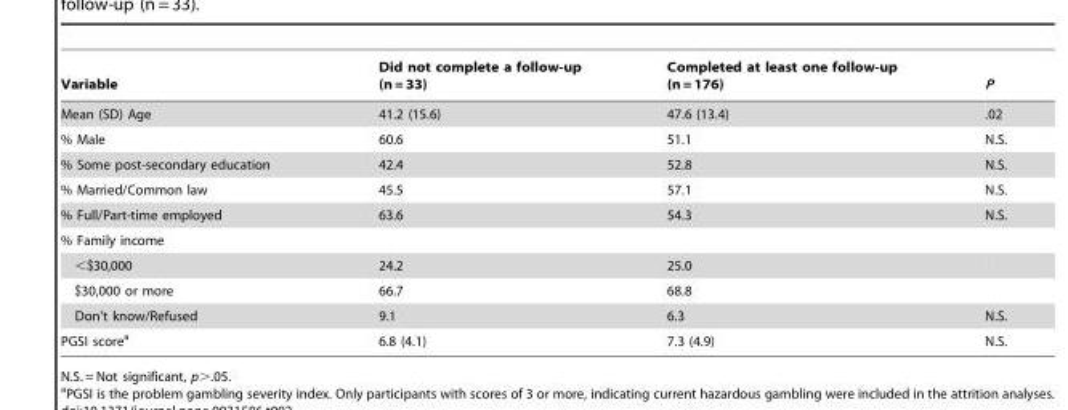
<table><thead><tr><td>Variable</td><td>Did not complete a follow-up (n = 33)</td><td>Completed at least one follow-up (n = 176)</td><td>P</td></tr></thead><tbody><tr><td>Mean (SD) Age</td><td>41.2 (15.6)</td><td>47.6 (13.4)</td><td>.02</td></tr><tr><td>% Male</td><td>60.6</td><td>51.1</td><td>N.S.</td></tr><tr><td>% Some post-secondary education</td><td>42.4</td><td>52.8</td><td>N.S.</td></tr><tr><td>% Married/Common law</td><td>45.5</td><td>57.1</td><td>N.S.</td></tr><tr><td>% Full/Part-time employed</td><td>63.6</td><td>54.3</td><td>N.S.</td></tr><tr><td colspan="4">% Family income</td></tr><tr><td>&lt;$30,000</td><td>24.2</td><td>25.0</td><td></td></tr><tr><td>$30,000 or more</td><td>66.7</td><td>68.8</td><td></td></tr><tr><td>Don’t know/Refused</td><td>9.1</td><td>6.3</td><td>N.S.</td></tr><tr><td>PGSI score<sup>a</sup></td><td>6.8 (4.1)</td><td>7.3 (4.9)</td><td>N.S.</td></tr></tbody></table>